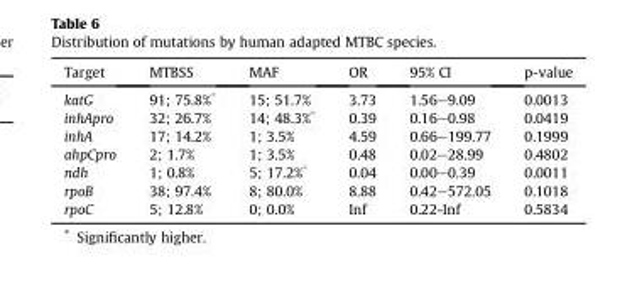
<table><thead><tr><td>Target</td><td>MTBSS</td><td>MAF</td><td>OR</td><td>95% CI</td><td>p-value</td></tr></thead><tbody><tr><td>katG</td><td>91; 75.8%*</td><td>15; 51.7%</td><td>3.73</td><td>1.56–9.09</td><td>0.0013</td></tr><tr><td>inhApro</td><td>32; 26.7%</td><td>14; 48.3%*</td><td>0.39</td><td>0.16–0.98</td><td>0.0419</td></tr><tr><td>inhA</td><td>17; 14.2%</td><td>1; 3.5%</td><td>4.59</td><td>0.66–199.77</td><td>0.1999</td></tr><tr><td>ahpCpro</td><td>2; 1.7%</td><td>1; 3.5%</td><td>0.48</td><td>0.02–28.99</td><td>0.4802</td></tr><tr><td>ndh</td><td>1; 0.8%</td><td>5; 17.2%*</td><td>0.04</td><td>0.00–0.39</td><td>0.0011</td></tr><tr><td>rpoB</td><td>38; 97.4%</td><td>8; 80.0%</td><td>8.88</td><td>0.42–572.05</td><td>0.1018</td></tr><tr><td>rpoC</td><td>5; 12.8%</td><td>0; 0.0%</td><td>Inf</td><td>0.22-Inf</td><td>0.5834</td></tr></tbody></table>